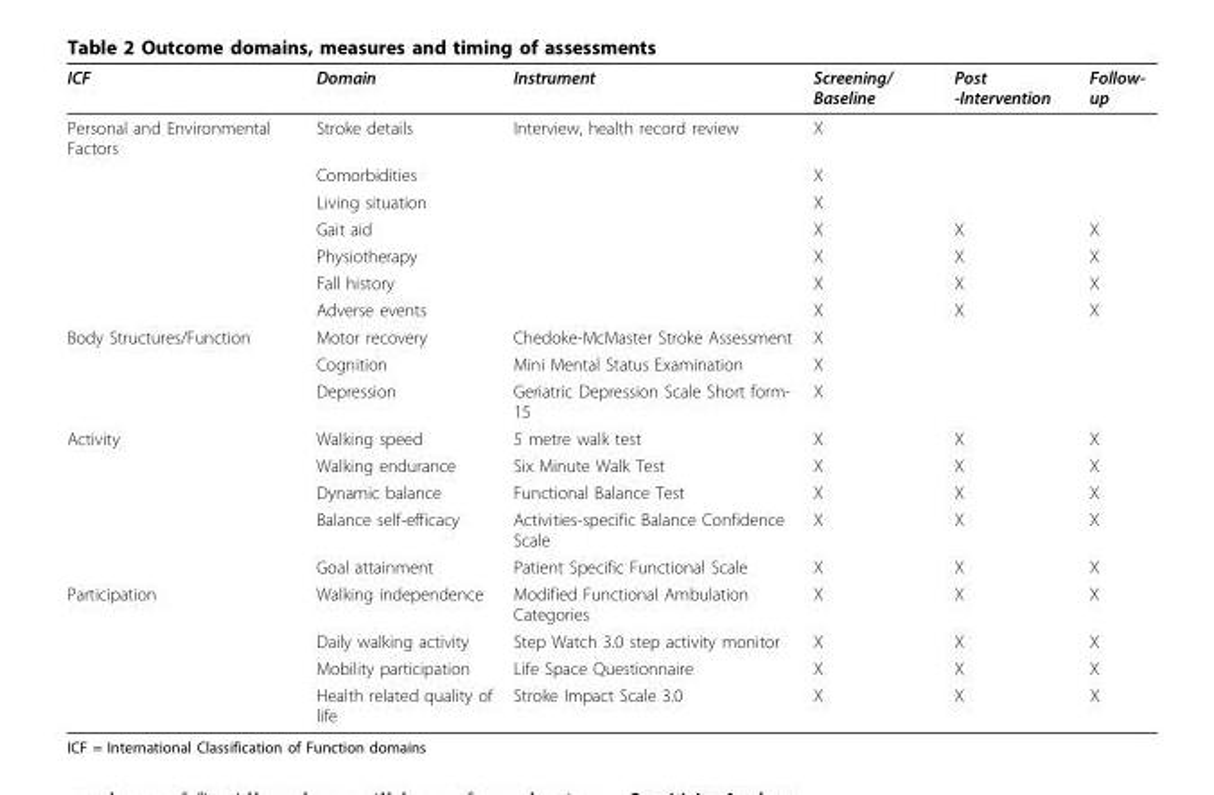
<table><thead><tr><td>ICF</td><td>Domain</td><td>Instrument</td><td>Screening/ Baseline</td><td>Post -Intervention</td><td>Follow- up</td></tr></thead><tbody><tr><td rowspan="7">Personal and Environmental Factors</td><td>Stroke details</td><td>Interview, health record review</td><td>X</td><td></td><td></td></tr><tr><td>Comorbidities</td><td></td><td>X</td><td></td><td></td></tr><tr><td>Living situation</td><td></td><td>X</td><td></td><td></td></tr><tr><td>Gait aid</td><td></td><td>X</td><td>X</td><td>X</td></tr><tr><td>Physiotherapy</td><td></td><td>X</td><td>X</td><td>X</td></tr><tr><td>Fall history</td><td></td><td>X</td><td>X</td><td>X</td></tr><tr><td>Adverse events</td><td></td><td>X</td><td>X</td><td>X</td></tr><tr><td rowspan="3">Body Structures/Function</td><td>Motor recovery</td><td>Chedoke-McMaster Stroke Assessment</td><td>X</td><td></td><td></td></tr><tr><td>Cognition</td><td>Mini Mental Status Examination</td><td>X</td><td></td><td></td></tr><tr><td>Depression</td><td>Geriatric Depression Scale Short form- 15</td><td>X</td><td></td><td></td></tr><tr><td rowspan="5">Activity</td><td>Walking speed</td><td>5 metre walk test</td><td>X</td><td>X</td><td>X</td></tr><tr><td>Walking endurance</td><td>Six Minute Walk Test</td><td>X</td><td>X</td><td>X</td></tr><tr><td>Dynamic balance</td><td>Functional Balance Test</td><td>X</td><td>X</td><td>X</td></tr><tr><td>Balance self-efficacy</td><td>Activities-specific Balance Confidence Scale</td><td>X</td><td>X</td><td>X</td></tr><tr><td>Goal attainment</td><td>Patient Specific Functional Scale</td><td>X</td><td>X</td><td>X</td></tr><tr><td rowspan="4">Participation</td><td>Walking independence</td><td>Modified Functional Ambulation Categories</td><td>X</td><td>X</td><td>X</td></tr><tr><td>Daily walking activity</td><td>Step Watch 3.0 step activity monitor</td><td>X</td><td>X</td><td>X</td></tr><tr><td>Mobility participation</td><td>Life Space Questionnaire</td><td>X</td><td>X</td><td>X</td></tr><tr><td>Health related quality of life</td><td>Stroke Impact Scale 3.0</td><td>X</td><td>X</td><td>X</td></tr></tbody></table>